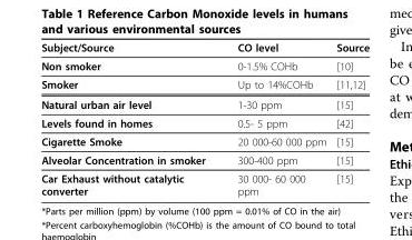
<table><thead><tr><td>Subject/Source</td><td>CO level</td><td>Source</td></tr></thead><tbody><tr><td>Non smoker</td><td>0-1.5% COHb</td><td>[10]</td></tr><tr><td>Smoker</td><td>Up to 14%COHb</td><td>[11,12]</td></tr><tr><td>Natural urban air level</td><td>1-30 ppm</td><td>[15]</td></tr><tr><td>Levels found in homes</td><td>0.5- 5 ppm</td><td>[42]</td></tr><tr><td>Cigarette Smoke</td><td>20 000-60 000 ppm</td><td>[15]</td></tr><tr><td>Alveolar Concentration in smoker</td><td>300-400 ppm</td><td>[15]</td></tr><tr><td>Car Exhaust without catalytic converter</td><td>30 000- 60 000 ppm</td><td>[15]</td></tr></tbody></table>